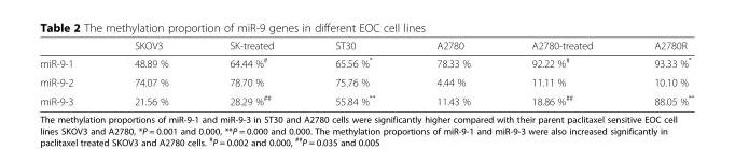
<table><thead><tr><td></td><td>SKOV3</td><td>SK-treated</td><td>ST30</td><td>A2780</td><td>A2780-treated</td><td>A2780R</td></tr></thead><tbody><tr><td>miR-9-1</td><td>48.89 %</td><td>64.44 %<sup>#</sup></td><td>65.56 %*</td><td>78.33 %</td><td>92.22 %<sup>#</sup></td><td>93.33 %*</td></tr><tr><td>miR-9-2</td><td>74.07 %</td><td>78.70 %</td><td>75.76 %</td><td>4.44 %</td><td>11.11 %</td><td>10.10 %</td></tr><tr><td>miR-9-3</td><td>21.56 %</td><td>28.29 %<sup>##</sup></td><td>55.84 %**</td><td>11.43 %</td><td>18.86 %<sup>##</sup></td><td>88.05 %**</td></tr></tbody></table>